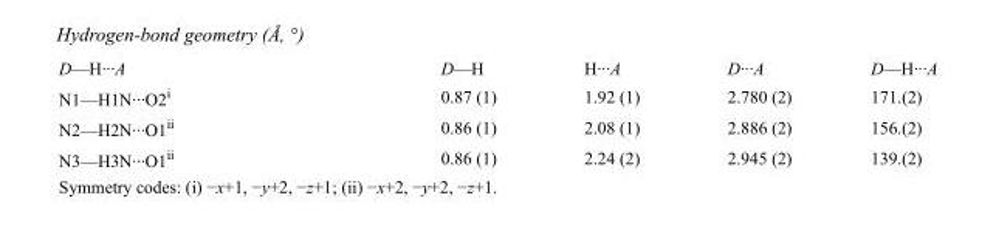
<table><tbody><tr><td>D—H···A</td><td>D—H</td><td>H···A</td><td>D···A</td><td>D—H···A</td></tr><tr><td>N1—H1N···O2<sup>i</sup></td><td>0.87 (1)</td><td>1.92 (1)</td><td>2.780 (2)</td><td>171.(2)</td></tr><tr><td>N2—H2N···O1<sup>ii</sup></td><td>0.86 (1)</td><td>2.08 (1)</td><td>2.886 (2)</td><td>156.(2)</td></tr><tr><td>N3—H3N···O1<sup>ii</sup></td><td>0.86 (1)</td><td>2.24 (2)</td><td>2.945 (2)</td><td>139.(2)</td></tr></tbody></table>